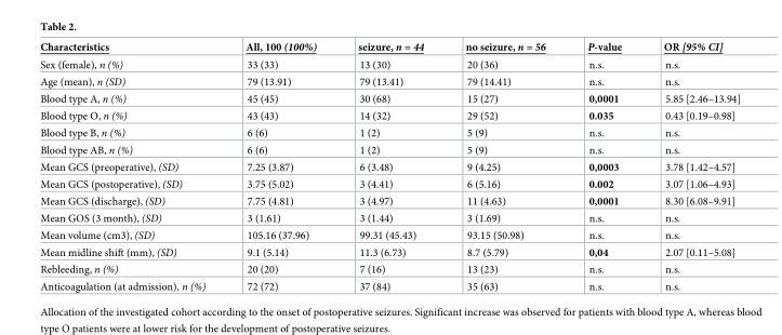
<table><thead><tr><td>Characteristics</td><td>All, 100 (100%)</td><td>seizure, n = 44</td><td>no seizure, n = 56</td><td>P-value</td><td>OR [95% CI]</td></tr></thead><tbody><tr><td>Sex (female), n (%)</td><td>33 (33)</td><td>13 (30)</td><td>20 (36)</td><td>n.s.</td><td>n.s.</td></tr><tr><td>Age (mean), n (SD)</td><td>79 (13.91)</td><td>79 (13.41)</td><td>79 (14.41)</td><td>n.s.</td><td>n.s.</td></tr><tr><td>Blood type A, n (%)</td><td>45 (45)</td><td>30 (68)</td><td>15 (27)</td><td>0,0001</td><td>5.85 [2.46–13.94]</td></tr><tr><td>Blood type O, n (%)</td><td>43 (43)</td><td>14 (32)</td><td>29 (52)</td><td>0.035</td><td>0.43 [0.19–0.98]</td></tr><tr><td>Blood type B, n (%)</td><td>6 (6)</td><td>1 (2)</td><td>5 (9)</td><td>n.s.</td><td>n.s.</td></tr><tr><td>Blood type AB, n (%)</td><td>6 (6)</td><td>1 (2)</td><td>5 (9)</td><td>n.s.</td><td>n.s.</td></tr><tr><td>Mean GCS (preoperative), (SD)</td><td>7.25 (3.87)</td><td>6 (3.48)</td><td>9 (4.25)</td><td>0,0003</td><td>3.78 [1.42–4.57]</td></tr><tr><td>Mean GCS (postoperative), (SD)</td><td>3.75 (5.02)</td><td>3 (4.41)</td><td>6 (5.16)</td><td>0.002</td><td>3.07 [1.06–4.93]</td></tr><tr><td>Mean GCS (discharge), (SD)</td><td>7.75 (4.81)</td><td>3 (4.97)</td><td>11 (4.63)</td><td>0,0001</td><td>8.30 [6.08–9.91]</td></tr><tr><td>Mean GOS (3 month), (SD)</td><td>3 (1.61)</td><td>3 (1.44)</td><td>3 (1.69)</td><td>n.s.</td><td>n.s.</td></tr><tr><td>Mean volume (cm3), (SD)</td><td>105.16 (37.96)</td><td>99.31 (45.43)</td><td>93.15 (50.98)</td><td>n.s.</td><td>n.s.</td></tr><tr><td>Mean midline shift (mm), (SD)</td><td>9.1 (5.14)</td><td>11.3 (6.73)</td><td>8.7 (5.79)</td><td>0,04</td><td>2.07 [0.11–5.08]</td></tr><tr><td>Rebleeding, n (%)</td><td>20 (20)</td><td>7 (16)</td><td>13 (23)</td><td>n.s.</td><td>n.s.</td></tr><tr><td>Anticoagulation (at admission), n (%)</td><td>72 (72)</td><td>37 (84)</td><td>35 (63)</td><td>n.s.</td><td>n.s.</td></tr></tbody></table>